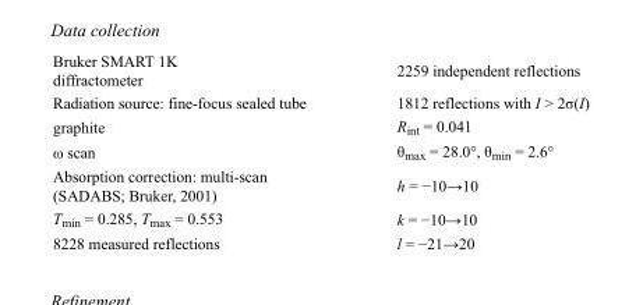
<table><tbody><tr><td>Bruker SMART 1K diffractometer</td><td>2259 independent reflections</td></tr><tr><td>Radiation source: fine-focus sealed tube</td><td>1812 reflections with I &gt; 2σ(I)</td></tr><tr><td>graphite</td><td>R<sub>int</sub> = 0.041</td></tr><tr><td>ω scan</td><td>θ<sub>max</sub> = 28.0°, θ<sub>min</sub> = 2.6°</td></tr><tr><td>Absorption correction: multi-scan (SADABS; Bruker, 2001)</td><td>h = −10→10</td></tr><tr><td>T<sub>min</sub> = 0.285, T<sub>max</sub> = 0.553</td><td>k = −10→10</td></tr><tr><td>8228 measured reflections</td><td>l = −21→20</td></tr></tbody></table>